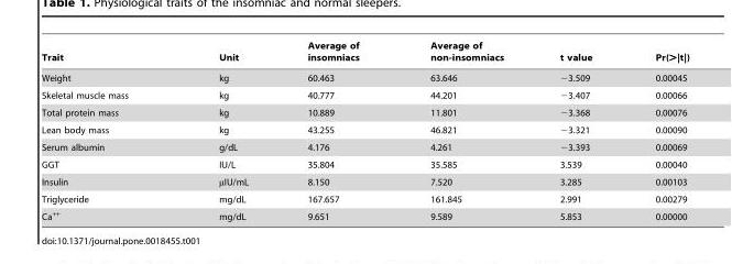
<table><thead><tr><td>Trait</td><td>Unit</td><td>Average of insomniacs</td><td>Average of non-insomniacs</td><td>t value</td><td>Pr(&gt;|t|)</td></tr></thead><tbody><tr><td>Weight</td><td>kg</td><td>60.463</td><td>63.646</td><td>−3.509</td><td>0.00045</td></tr><tr><td>Skeletal muscle mass</td><td>kg</td><td>40.777</td><td>44.201</td><td>−3.407</td><td>0.00066</td></tr><tr><td>Total protein mass</td><td>kg</td><td>10.889</td><td>11.801</td><td>−3.368</td><td>0.00076</td></tr><tr><td>Lean body mass</td><td>kg</td><td>43.255</td><td>46.821</td><td>−3.321</td><td>0.00090</td></tr><tr><td>Serum albumin</td><td>g/dL</td><td>4.176</td><td>4.261</td><td>−3.393</td><td>0.00069</td></tr><tr><td>GGT</td><td>IU/L</td><td>35.804</td><td>35.585</td><td>3.539</td><td>0.00040</td></tr><tr><td>Insulin</td><td>µIU/mL</td><td>8.150</td><td>7.520</td><td>3.285</td><td>0.00103</td></tr><tr><td>Triglyceride</td><td>mg/dL</td><td>167.657</td><td>161.845</td><td>2.991</td><td>0.00279</td></tr><tr><td>Ca<sup>++</sup></td><td>mg/dL</td><td>9.651</td><td>9.589</td><td>5.853</td><td>0.00000</td></tr></tbody></table>